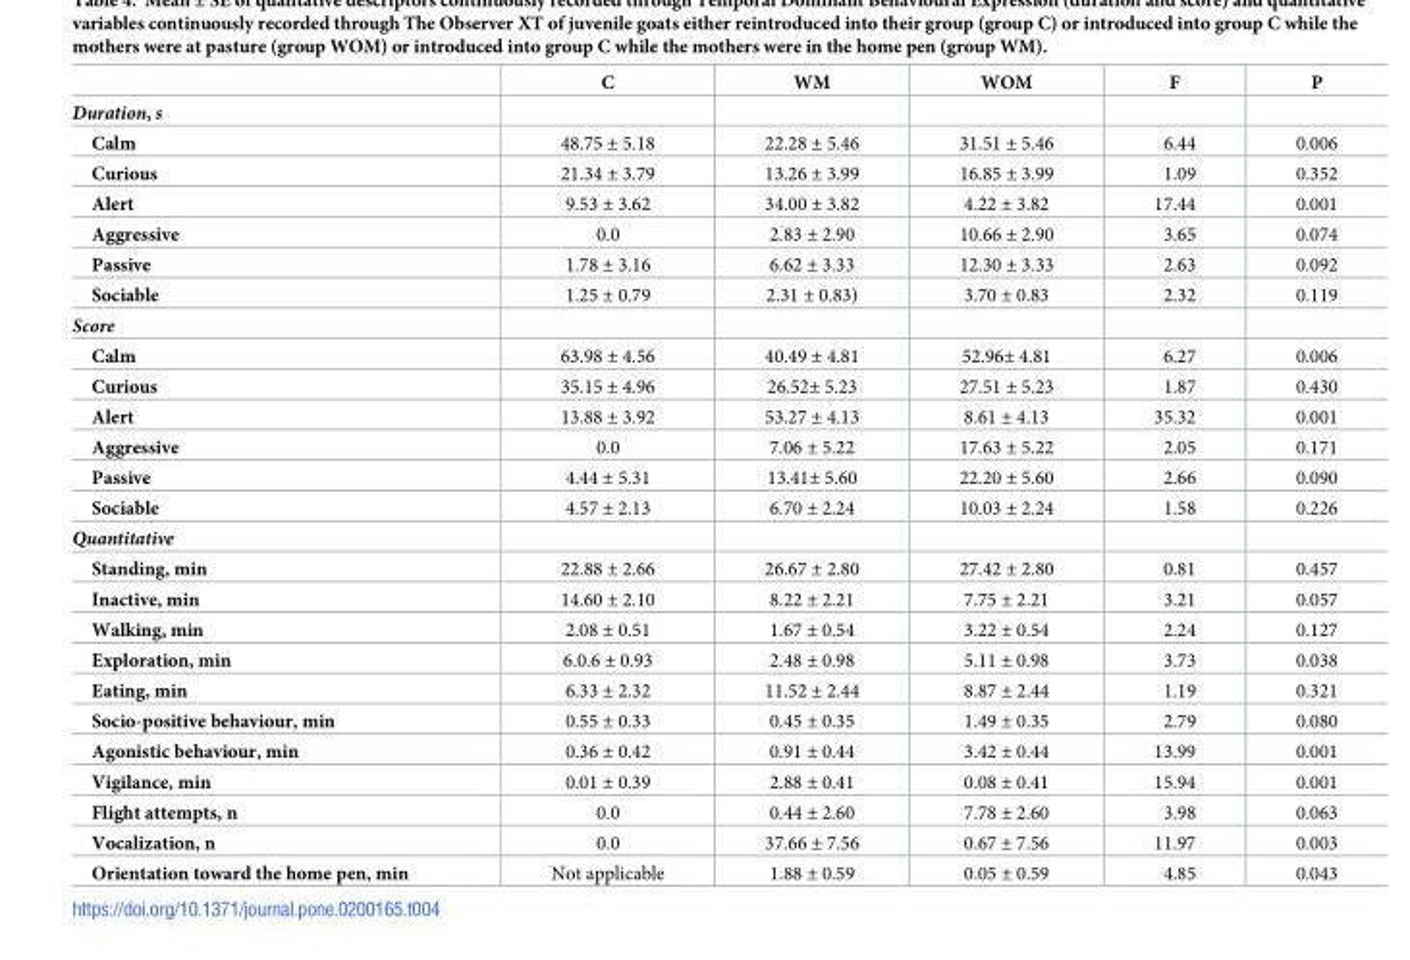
<table><thead><tr><td></td><td>C</td><td>WM</td><td>WOM</td><td>F</td><td>P</td></tr></thead><tbody><tr><td colspan="6">Duration, s</td></tr><tr><td>Calm</td><td>48.75 ± 5.18</td><td>22.28 ± 5.46</td><td>31.51 ± 5.46</td><td>6.44</td><td>0.006</td></tr><tr><td>Curious</td><td>21.34 ± 3.79</td><td>13.26 ± 3.99</td><td>16.85 ± 3.99</td><td>1.09</td><td>0.352</td></tr><tr><td>Alert</td><td>9.53 ± 3.62</td><td>34.00 ± 3.82</td><td>4.22 ± 3.82</td><td>17.44</td><td>0.001</td></tr><tr><td>Aggressive</td><td>0.0</td><td>2.83 ± 2.90</td><td>10.66 ± 2.90</td><td>3.65</td><td>0.074</td></tr><tr><td>Passive</td><td>1.78 ± 3.16</td><td>6.62 ± 3.33</td><td>12.30 ± 3.33</td><td>2.63</td><td>0.092</td></tr><tr><td>Sociable</td><td>1.25 ± 0.79</td><td>2.31 ± 0.83)</td><td>3.70 ± 0.83</td><td>2.32</td><td>0.119</td></tr><tr><td colspan="6">Score</td></tr><tr><td>Calm</td><td>63.98 ± 4.56</td><td>40.49 ± 4.81</td><td>52.96± 4.81</td><td>6.27</td><td>0.006</td></tr><tr><td>Curious</td><td>35.15 ± 4.96</td><td>26.52± 5.23</td><td>27.51 ± 5.23</td><td>1.87</td><td>0.430</td></tr><tr><td>Alert</td><td>13.88 ± 3.92</td><td>53.27 ± 4.13</td><td>8.61 ± 4.13</td><td>35.32</td><td>0.001</td></tr><tr><td>Aggressive</td><td>0.0</td><td>7.06 ± 5.22</td><td>17.63 ± 5.22</td><td>2.05</td><td>0.171</td></tr><tr><td>Passive</td><td>4.44 ± 5.31</td><td>13.41± 5.60</td><td>22.20 ± 5.60</td><td>2.66</td><td>0.090</td></tr><tr><td>Sociable</td><td>4.57 ± 2.13</td><td>6.70 ± 2.24</td><td>10.03 ± 2.24</td><td>1.58</td><td>0.226</td></tr><tr><td colspan="6">Quantitative</td></tr><tr><td>Standing, min</td><td>22.88 ± 2.66</td><td>26.67 ± 2.80</td><td>27.42 ± 2.80</td><td>0.81</td><td>0.457</td></tr><tr><td>Inactive, min</td><td>14.60 ± 2.10</td><td>8.22 ± 2.21</td><td>7.75 ± 2.21</td><td>3.21</td><td>0.057</td></tr><tr><td>Walking, min</td><td>2.08 ± 0.51</td><td>1.67 ± 0.54</td><td>3.22 ± 0.54</td><td>2.24</td><td>0.127</td></tr><tr><td>Exploration, min</td><td>6.0.6 ± 0.93</td><td>2.48 ± 0.98</td><td>5.11 ± 0.98</td><td>3.73</td><td>0.038</td></tr><tr><td>Eating, min</td><td>6.33 ± 2.32</td><td>11.52 ± 2.44</td><td>8.87 ± 2.44</td><td>1.19</td><td>0.321</td></tr><tr><td>Socio-positive behaviour, min</td><td>0.55 ± 0.33</td><td>0.45 ± 0.35</td><td>1.49 ± 0.35</td><td>2.79</td><td>0.080</td></tr><tr><td>Agonistic behaviour, min</td><td>0.36 ± 0.42</td><td>0.91 ± 0.44</td><td>3.42 ± 0.44</td><td>13.99</td><td>0.001</td></tr><tr><td>Vigilance, min</td><td>0.01 ± 0.39</td><td>2.88 ± 0.41</td><td>0.08 ± 0.41</td><td>15.94</td><td>0.001</td></tr><tr><td>Flight attempts, n</td><td>0.0</td><td>0.44 ± 2.60</td><td>7.78 ± 2.60</td><td>3.98</td><td>0.063</td></tr><tr><td>Vocalization, n</td><td>0.0</td><td>37.66 ± 7.56</td><td>0.67 ± 7.56</td><td>11.97</td><td>0.003</td></tr><tr><td>Orientation toward the home pen, min</td><td>Not applicable</td><td>1.88 ± 0.59</td><td>0.05 ± 0.59</td><td>4.85</td><td>0.043</td></tr></tbody></table>